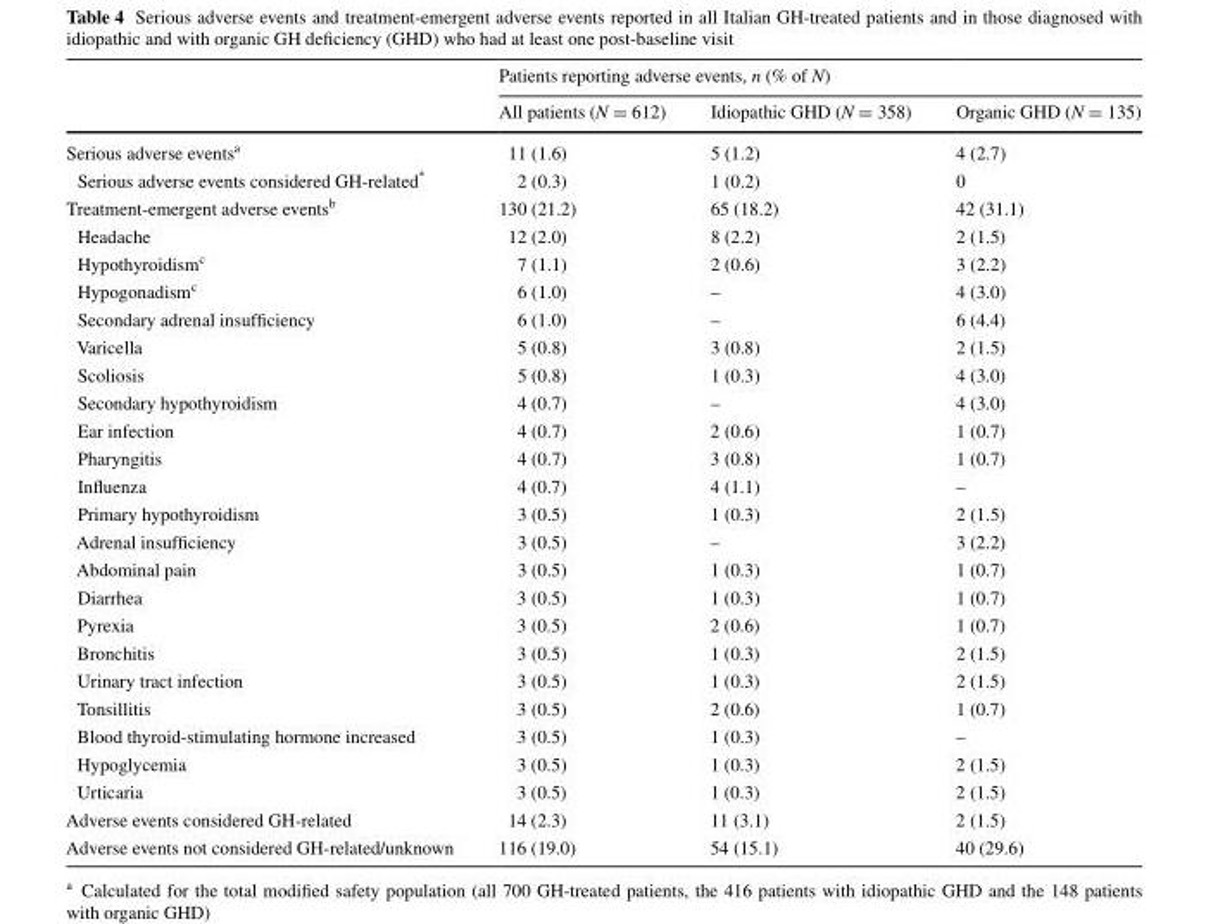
<table><thead><tr><td rowspan="2"></td><td colspan="3">Patients reporting adverse events, n (% of N)</td></tr><tr><td>All patients (N = 612)</td><td>Idiopathic GHD (N = 358)</td><td>Organic GHD (N = 135)</td></tr></thead><tbody><tr><td>Serious adverse events<sup>a</sup></td><td>11 (1.6)</td><td>5 (1.2)</td><td>4 (2.7)</td></tr><tr><td>Serious adverse events considered GH-related*</td><td>2 (0.3)</td><td>1 (0.2)</td><td>0</td></tr><tr><td>Treatment-emergent adverse events<sup>b</sup></td><td>130 (21.2)</td><td>65 (18.2)</td><td>42 (31.1)</td></tr><tr><td>Headache</td><td>12 (2.0)</td><td>8 (2.2)</td><td>2 (1.5)</td></tr><tr><td>Hypothyroidism<sup>c</sup></td><td>7 (1.1)</td><td>2 (0.6)</td><td>3 (2.2)</td></tr><tr><td>Hypogonadism<sup>c</sup></td><td>6 (1.0)</td><td>–</td><td>4 (3.0)</td></tr><tr><td>Secondary adrenal insufficiency</td><td>6 (1.0)</td><td>–</td><td>6 (4.4)</td></tr><tr><td>Varicella</td><td>5 (0.8)</td><td>3 (0.8)</td><td>2 (1.5)</td></tr><tr><td>Scoliosis</td><td>5 (0.8)</td><td>1 (0.3)</td><td>4 (3.0)</td></tr><tr><td>Secondary hypothyroidism</td><td>4 (0.7)</td><td>–</td><td>4 (3.0)</td></tr><tr><td>Ear infection</td><td>4 (0.7)</td><td>2 (0.6)</td><td>1 (0.7)</td></tr><tr><td>Pharyngitis</td><td>4 (0.7)</td><td>3 (0.8)</td><td>1 (0.7)</td></tr><tr><td>Influenza</td><td>4 (0.7)</td><td>4 (1.1)</td><td>–</td></tr><tr><td>Primary hypothyroidism</td><td>3 (0.5)</td><td>1 (0.3)</td><td>2 (1.5)</td></tr><tr><td>Adrenal insufficiency</td><td>3 (0.5)</td><td>–</td><td>3 (2.2)</td></tr><tr><td>Abdominal pain</td><td>3 (0.5)</td><td>1 (0.3)</td><td>1 (0.7)</td></tr><tr><td>Diarrhea</td><td>3 (0.5)</td><td>1 (0.3)</td><td>1 (0.7)</td></tr><tr><td>Pyrexia</td><td>3 (0.5)</td><td>2 (0.6)</td><td>1 (0.7)</td></tr><tr><td>Bronchitis</td><td>3 (0.5)</td><td>1 (0.3)</td><td>2 (1.5)</td></tr><tr><td>Urinary tract infection</td><td>3 (0.5)</td><td>1 (0.3)</td><td>2 (1.5)</td></tr><tr><td>Tonsillitis</td><td>3 (0.5)</td><td>2 (0.6)</td><td>1 (0.7)</td></tr><tr><td>Blood thyroid-stimulating hormone increased</td><td>3 (0.5)</td><td>1 (0.3)</td><td>–</td></tr><tr><td>Hypoglycemia</td><td>3 (0.5)</td><td>1 (0.3)</td><td>2 (1.5)</td></tr><tr><td>Urticaria</td><td>3 (0.5)</td><td>1 (0.3)</td><td>2 (1.5)</td></tr><tr><td>Adverse events considered GH-related</td><td>14 (2.3)</td><td>11 (3.1)</td><td>2 (1.5)</td></tr><tr><td>Adverse events not considered GH-related/unknown</td><td>116 (19.0)</td><td>54 (15.1)</td><td>40 (29.6)</td></tr></tbody></table>